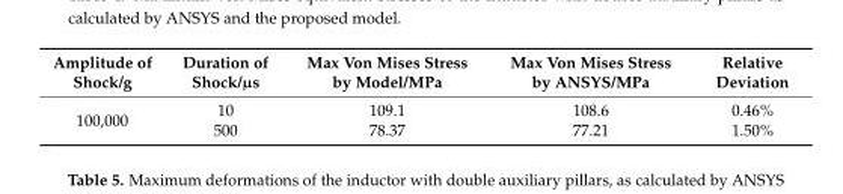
<table><thead><tr><td>Amplitude of Shock/g</td><td>Duration of Shock/µs</td><td>Max Von Mises Stress by Model/MPa</td><td>Max Von Mises Stress by ANSYS/MPa</td><td>Relative Deviation</td></tr></thead><tbody><tr><td rowspan="2">100,000</td><td>10</td><td>109.1</td><td>108.6</td><td>0.46%</td></tr><tr><td>500</td><td>78.37</td><td>77.21</td><td>1.50%</td></tr></tbody></table>